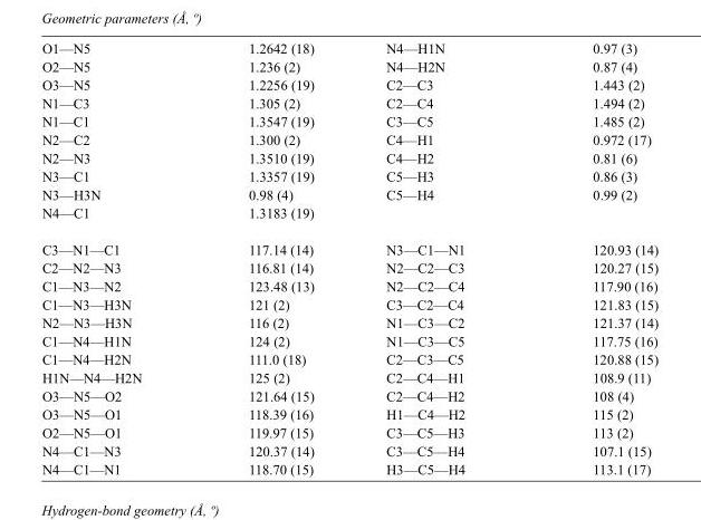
<table><tbody><tr><td>O1—N5</td><td>1.2642 (18)</td><td>N4—H1N</td><td>0.97 (3)</td></tr><tr><td>O2—N5</td><td>1.236 (2)</td><td>N4—H2N</td><td>0.87 (4)</td></tr><tr><td>O3—N5</td><td>1.2256 (19)</td><td>C2—C3</td><td>1.443 (2)</td></tr><tr><td>N1—C3</td><td>1.305 (2)</td><td>C2—C4</td><td>1.494 (2)</td></tr><tr><td>N1—C1</td><td>1.3547 (19)</td><td>C3—C5</td><td>1.485 (2)</td></tr><tr><td>N2—C2</td><td>1.300 (2)</td><td>C4—H1</td><td>0.972 (17)</td></tr><tr><td>N2—N3</td><td>1.3510 (19)</td><td>C4—H2</td><td>0.81 (6)</td></tr><tr><td>N3—C1</td><td>1.3357 (19)</td><td>C5—H3</td><td>0.86 (3)</td></tr><tr><td>N3—H3N</td><td>0.98 (4)</td><td>C5—H4</td><td>0.99 (2)</td></tr><tr><td>N4—C1</td><td>1.3183 (19)</td><td></td><td></td></tr><tr><td>C3—N1—C1</td><td>117.14 (14)</td><td>N3—C1—N1</td><td>120.93 (14)</td></tr><tr><td>C2—N2—N3</td><td>116.81 (14)</td><td>N2—C2—C3</td><td>120.27 (15)</td></tr><tr><td>C1—N3—N2</td><td>123.48 (13)</td><td>N2—C2—C4</td><td>117.90 (16)</td></tr><tr><td>C1—N3—H3N</td><td>121 (2)</td><td>C3—C2—C4</td><td>121.83 (15)</td></tr><tr><td>N2—N3—H3N</td><td>116 (2)</td><td>N1—C3—C2</td><td>121.37 (14)</td></tr><tr><td>C1—N4—H1N</td><td>124 (2)</td><td>N1—C3—C5</td><td>117.75 (16)</td></tr><tr><td>C1—N4—H2N</td><td>111.0 (18)</td><td>C2—C3—C5</td><td>120.88 (15)</td></tr><tr><td>H1N—N4—H2N</td><td>125 (2)</td><td>C2—C4—H1</td><td>108.9 (11)</td></tr><tr><td>O3—N5—O2</td><td>121.64 (15)</td><td>C2—C4—H2</td><td>108 (4)</td></tr><tr><td>O3—N5—O1</td><td>118.39 (16)</td><td>H1—C4—H2</td><td>115 (2)</td></tr><tr><td>O2—N5—O1</td><td>119.97 (15)</td><td>C3—C5—H3</td><td>113 (2)</td></tr><tr><td>N4—C1—N3</td><td>120.37 (14)</td><td>C3—C5—H4</td><td>107.1 (15)</td></tr><tr><td>N4—C1—N1</td><td>118.70 (15)</td><td>H3—C5—H4</td><td>113.1 (17)</td></tr></tbody></table>